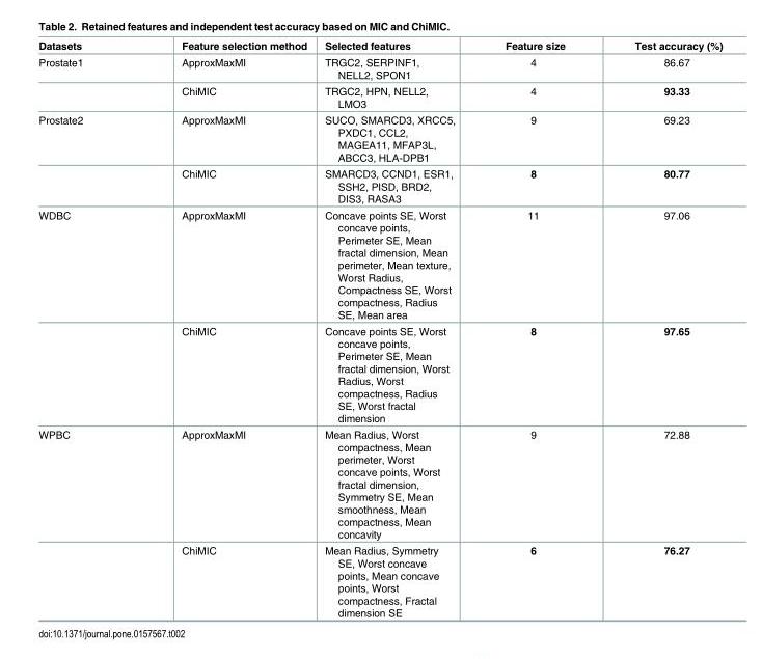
<table><thead><tr><td>Datasets</td><td>Feature selection method</td><td>Selected features</td><td>Feature size</td><td>Test accuracy (%)</td></tr></thead><tbody><tr><td rowspan="2">Prostate1</td><td>ApproxMaxMI</td><td>TRGC2, SERPINF1, NELL2, SPON1</td><td>4</td><td>86.67</td></tr><tr><td>ChiMIC</td><td>TRGC2, HPN, NELL2, LMO3</td><td>4</td><td>93.33</td></tr><tr><td rowspan="2">Prostate2</td><td>ApproxMaxMI</td><td>SUCO, SMARCD3, XRCC5, PXDC1, CCL2, MAGEA11, MFAP3L, ABCC3, HLA-DPB1</td><td>9</td><td>69.23</td></tr><tr><td>ChiMIC</td><td>SMARCD3, CCND1, ESR1, SSH2, PISD, BRD2, DIS3, RASA3</td><td>8</td><td>80.77</td></tr><tr><td rowspan="2">WDBC</td><td>ApproxMaxMI</td><td>Concave points SE, Worst concave points, Perimeter SE, Mean fractal dimension, Mean perimeter, Mean texture, Worst Radius, Compactness SE, Worst compactness, Radius SE, Mean area</td><td>11</td><td>97.06</td></tr><tr><td>ChiMIC</td><td>Concave points SE, Worst concave points, Perimeter SE, Mean fractal dimension, Worst Radius, Worst compactness, Radius SE, Worst fractal dimension</td><td>8</td><td>97.65</td></tr><tr><td rowspan="2">WPBC</td><td>ApproxMaxMI</td><td>Mean Radius, Worst compactness, Mean perimeter, Worst concave points, Worst fractal dimension, Symmetry SE, Mean smoothness, Mean compactness, Mean concavity</td><td>9</td><td>72.88</td></tr><tr><td>ChiMIC</td><td>Mean Radius, Symmetry SE, Worst concave points, Mean concave points, Worst compactness, Fractal dimension SE</td><td>6</td><td>76.27</td></tr></tbody></table>